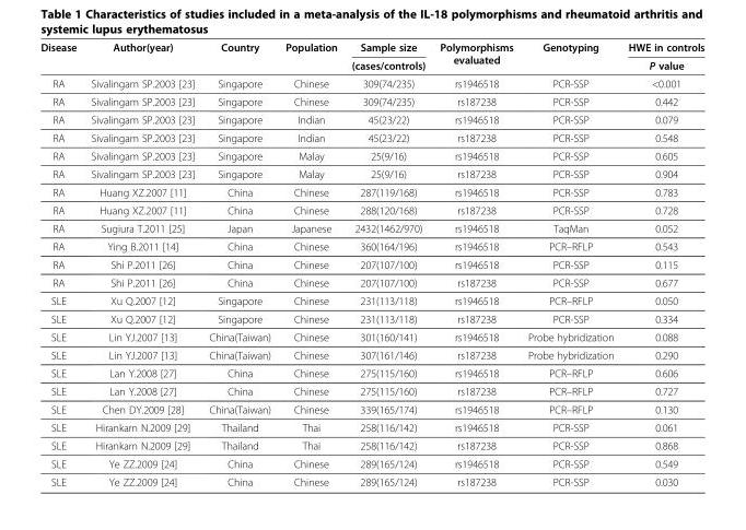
<table><thead><tr><td rowspan="2">Disease</td><td rowspan="2">Author(year)</td><td rowspan="2">Country</td><td rowspan="2">Population</td><td rowspan="2">Sample size (cases/controls)</td><td rowspan="2">Polymorphisms evaluated</td><td rowspan="2">Genotyping</td><td rowspan="2">HWE in controls P value</td></tr><tr></tr></thead><tbody><tr><td>RA</td><td>Sivalingam SP.2003 [23]</td><td>Singapore</td><td>Chinese</td><td>309(74/235)</td><td>rs1946518</td><td>PCR-SSP</td><td>&lt;0.001</td></tr><tr><td>RA</td><td>Sivalingam SP.2003 [23]</td><td>Singapore</td><td>Chinese</td><td>309(74/235)</td><td>rs187238</td><td>PCR-SSP</td><td>0.442</td></tr><tr><td>RA</td><td>Sivalingam SP.2003 [23]</td><td>Singapore</td><td>Indian</td><td>45(23/22)</td><td>rs1946518</td><td>PCR-SSP</td><td>0.079</td></tr><tr><td>RA</td><td>Sivalingam SP.2003 [23]</td><td>Singapore</td><td>Indian</td><td>45(23/22)</td><td>rs187238</td><td>PCR-SSP</td><td>0.548</td></tr><tr><td>RA</td><td>Sivalingam SP.2003 [23]</td><td>Singapore</td><td>Malay</td><td>25(9/16)</td><td>rs1946518</td><td>PCR-SSP</td><td>0.605</td></tr><tr><td>RA</td><td>Sivalingam SP.2003 [23]</td><td>Singapore</td><td>Malay</td><td>25(9/16)</td><td>rs187238</td><td>PCR-SSP</td><td>0.904</td></tr><tr><td>RA</td><td>Huang XZ.2007 [11]</td><td>China</td><td>Chinese</td><td>287(119/168)</td><td>rs1946518</td><td>PCR-SSP</td><td>0.783</td></tr><tr><td>RA</td><td>Huang XZ.2007 [11]</td><td>China</td><td>Chinese</td><td>288(120/168)</td><td>rs187238</td><td>PCR-SSP</td><td>0.728</td></tr><tr><td>RA</td><td>Sugiura T.2011 [25]</td><td>Japan</td><td>Japanese</td><td>2432(1462/970)</td><td>rs1946518</td><td>TaqMan</td><td>0.052</td></tr><tr><td>RA</td><td>Ying B.2011 [14]</td><td>China</td><td>Chinese</td><td>360(164/196)</td><td>rs1946518</td><td>PCR–RFLP</td><td>0.543</td></tr><tr><td>RA</td><td>Shi P.2011 [26]</td><td>China</td><td>Chinese</td><td>207(107/100)</td><td>rs1946518</td><td>PCR-SSP</td><td>0.115</td></tr><tr><td>RA</td><td>Shi P.2011 [26]</td><td>China</td><td>Chinese</td><td>207(107/100)</td><td>rs187238</td><td>PCR-SSP</td><td>0.677</td></tr><tr><td>SLE</td><td>Xu Q.2007 [12]</td><td>Singapore</td><td>Chinese</td><td>231(113/118)</td><td>rs1946518</td><td>PCR–RFLP</td><td>0.050</td></tr><tr><td>SLE</td><td>Xu Q.2007 [12]</td><td>Singapore</td><td>Chinese</td><td>231(113/118)</td><td>rs187238</td><td>PCR-SSP</td><td>0.334</td></tr><tr><td>SLE</td><td>Lin YJ.2007 [13]</td><td>China(Taiwan)</td><td>Chinese</td><td>301(160/141)</td><td>rs1946518</td><td>Probe hybridization</td><td>0.088</td></tr><tr><td>SLE</td><td>Lin YJ.2007 [13]</td><td>China(Taiwan)</td><td>Chinese</td><td>307(161/146)</td><td>rs187238</td><td>Probe hybridization</td><td>0.290</td></tr><tr><td>SLE</td><td>Lan Y.2008 [27]</td><td>China</td><td>Chinese</td><td>275(115/160)</td><td>rs1946518</td><td>PCR–RFLP</td><td>0.606</td></tr><tr><td>SLE</td><td>Lan Y.2008 [27]</td><td>China</td><td>Chinese</td><td>275(115/160)</td><td>rs187238</td><td>PCR–RFLP</td><td>0.727</td></tr><tr><td>SLE</td><td>Chen DY.2009 [28]</td><td>China(Taiwan)</td><td>Chinese</td><td>339(165/174)</td><td>rs1946518</td><td>PCR–RFLP</td><td>0.130</td></tr><tr><td>SLE</td><td>Hirankarn N.2009 [29]</td><td>Thailand</td><td>Thai</td><td>258(116/142)</td><td>rs1946518</td><td>PCR-SSP</td><td>0.061</td></tr><tr><td>SLE</td><td>Hirankarn N.2009 [29]</td><td>Thailand</td><td>Thai</td><td>258(116/142)</td><td>rs187238</td><td>PCR-SSP</td><td>0.868</td></tr><tr><td>SLE</td><td>Ye ZZ.2009 [24]</td><td>China</td><td>Chinese</td><td>289(165/124)</td><td>rs1946518</td><td>PCR-SSP</td><td>0.549</td></tr><tr><td>SLE</td><td>Ye ZZ.2009 [24]</td><td>China</td><td>Chinese</td><td>289(165/124)</td><td>rs187238</td><td>PCR-SSP</td><td>0.030</td></tr></tbody></table>